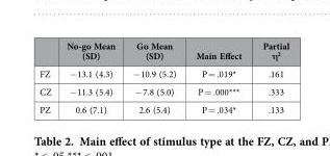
<table><thead><tr><td></td><td>No-go Mean (SD)</td><td>Go Mean (SD)</td><td>Main Effect</td><td>Partial η<sup>2</sup></td></tr></thead><tbody><tr><td>FZ</td><td>− 13.1 (4.3)</td><td>− 10.9 (5.2)</td><td>P = .019*</td><td>.161</td></tr><tr><td>CZ</td><td>− 11.3 (5.4)</td><td>− 7.8 (5.0)</td><td>P = .000***</td><td>.333</td></tr><tr><td>PZ</td><td>0.6 (7.1)</td><td>2.6 (5.4)</td><td>P = .034*</td><td>.133</td></tr></tbody></table>